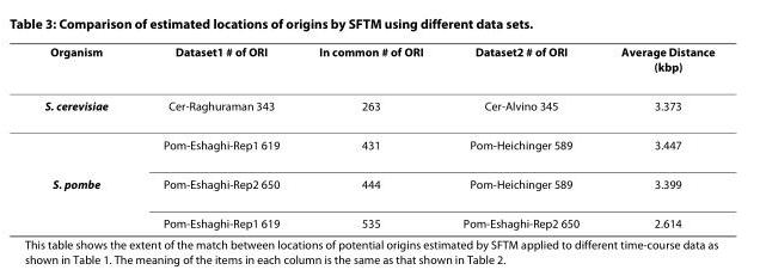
<table><thead><tr><td>Organism</td><td>Dataset1 # of ORI</td><td>In common # of ORI</td><td>Dataset2 # of ORI</td><td>Average Distance (kbp)</td></tr></thead><tbody><tr><td rowspan="2">S. cerevisiae</td><td>Cer-Raghuraman 343</td><td>263</td><td>Cer-Alvino 345</td><td>3.373</td></tr><tr><td>Pom-Eshaghi-Rep1 619</td><td>431</td><td>Pom-Heichinger 589</td><td>3.447</td></tr><tr><td rowspan="2">S. pombe</td><td>Pom-Eshaghi-Rep2 650</td><td>444</td><td>Pom-Heichinger 589</td><td>3.399</td></tr><tr><td>Pom-Eshaghi-Rep1 619</td><td>535</td><td>Pom-Eshaghi-Rep2 650</td><td>2.614</td></tr></tbody></table>